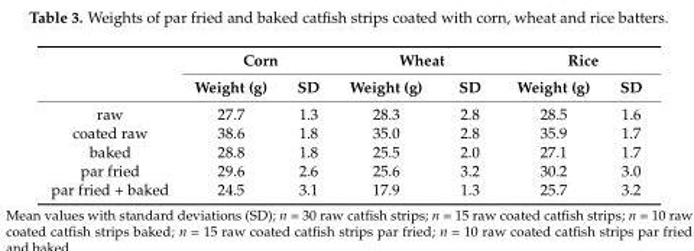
<table><thead><tr><td rowspan="2"></td><td colspan="2">Corn</td><td colspan="2">Wheat</td><td colspan="2">Rice</td></tr><tr><td>Weight (g)</td><td>SD</td><td>Weight (g)</td><td>SD</td><td>Weight (g)</td><td>SD</td></tr></thead><tbody><tr><td>raw</td><td>27.7</td><td>1.3</td><td>28.3</td><td>2.8</td><td>28.5</td><td>1.6</td></tr><tr><td>coated raw</td><td>38.6</td><td>1.8</td><td>35.0</td><td>2.8</td><td>35.9</td><td>1.7</td></tr><tr><td>baked</td><td>28.8</td><td>1.8</td><td>25.5</td><td>2.0</td><td>27.1</td><td>1.7</td></tr><tr><td>par fried</td><td>29.6</td><td>2.6</td><td>25.6</td><td>3.2</td><td>30.2</td><td>3.0</td></tr><tr><td>par fried + baked</td><td>24.5</td><td>3.1</td><td>17.9</td><td>1.3</td><td>25.7</td><td>3.2</td></tr></tbody></table>